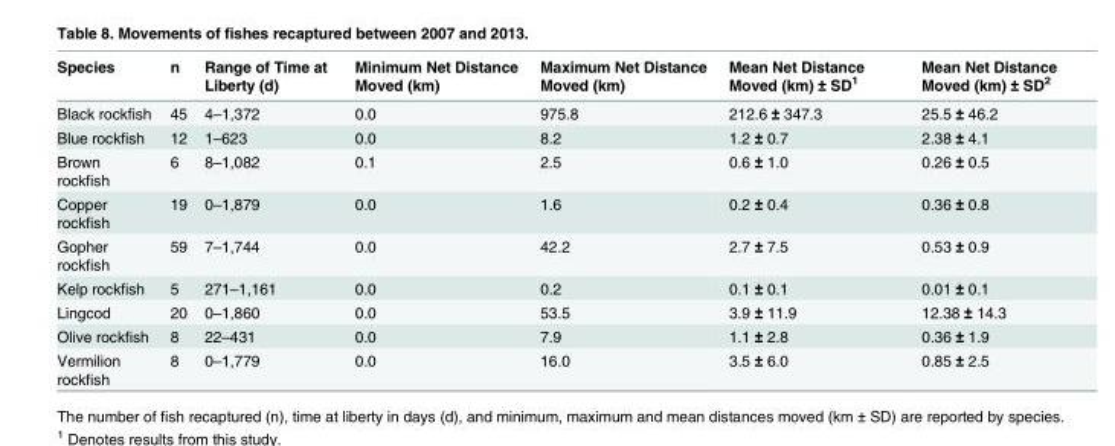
<table><thead><tr><td>Species</td><td>n</td><td>Range of Time at Liberty (d)</td><td>Minimum Net Distance Moved (km)</td><td>Maximum Net Distance Moved (km)</td><td>Mean Net Distance Moved (km) ± SD<sup>1</sup></td><td>Mean Net Distance Moved (km) ± SD<sup>2</sup></td></tr></thead><tbody><tr><td>Black rockfish</td><td>45</td><td>4–1,372</td><td>0.0</td><td>975.8</td><td>212.6 ± 347.3</td><td>25.5 ± 46.2</td></tr><tr><td>Blue rockfish</td><td>12</td><td>1–623</td><td>0.0</td><td>8.2</td><td>1.2 ± 0.7</td><td>2.38 ± 4.1</td></tr><tr><td>Brown rockfish</td><td>6</td><td>8–1,082</td><td>0.1</td><td>2.5</td><td>0.6 ± 1.0</td><td>0.26 ± 0.5</td></tr><tr><td>Copper rockfish</td><td>19</td><td>0–1,879</td><td>0.0</td><td>1.6</td><td>0.2 ± 0.4</td><td>0.36 ± 0.8</td></tr><tr><td>Gopher rockfish</td><td>59</td><td>7–1,744</td><td>0.0</td><td>42.2</td><td>2.7 ± 7.5</td><td>0.53 ± 0.9</td></tr><tr><td>Kelp rockfish</td><td>5</td><td>271–1,161</td><td>0.0</td><td>0.2</td><td>0.1 ± 0.1</td><td>0.01 ± 0.1</td></tr><tr><td>Lingcod</td><td>20</td><td>0–1,860</td><td>0.0</td><td>53.5</td><td>3.9 ± 11.9</td><td>12.38 ± 14.3</td></tr><tr><td>Olive rockfish</td><td>8</td><td>22–431</td><td>0.0</td><td>7.9</td><td>1.1 ± 2.8</td><td>0.36 ± 1.9</td></tr><tr><td>Vermilion rockfish</td><td>8</td><td>0–1,779</td><td>0.0</td><td>16.0</td><td>3.5 ± 6.0</td><td>0.85 ± 2.5</td></tr></tbody></table>